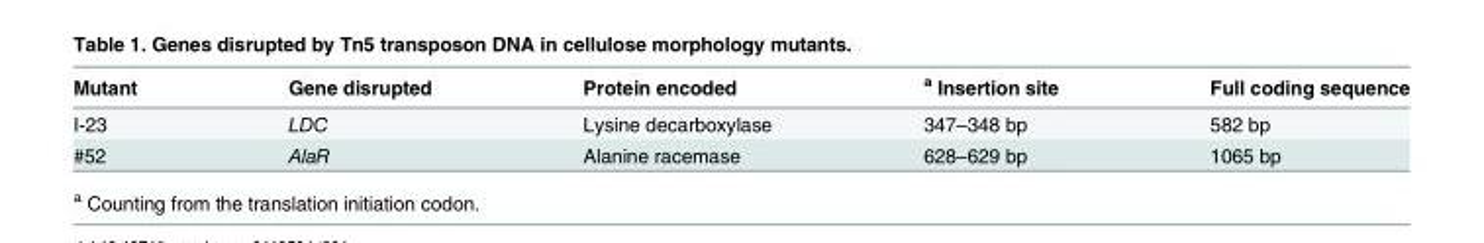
<table><thead><tr><td>Mutant</td><td>Gene disrupted</td><td>Protein encoded</td><td><sup>a</sup> Insertion site</td><td>Full coding sequence</td></tr></thead><tbody><tr><td>I-23</td><td>LDC</td><td>Lysine decarboxylase</td><td>347–348 bp</td><td>582 bp</td></tr><tr><td>#52</td><td>AlaR</td><td>Alanine racemase</td><td>628–629 bp</td><td>1065 bp</td></tr></tbody></table>